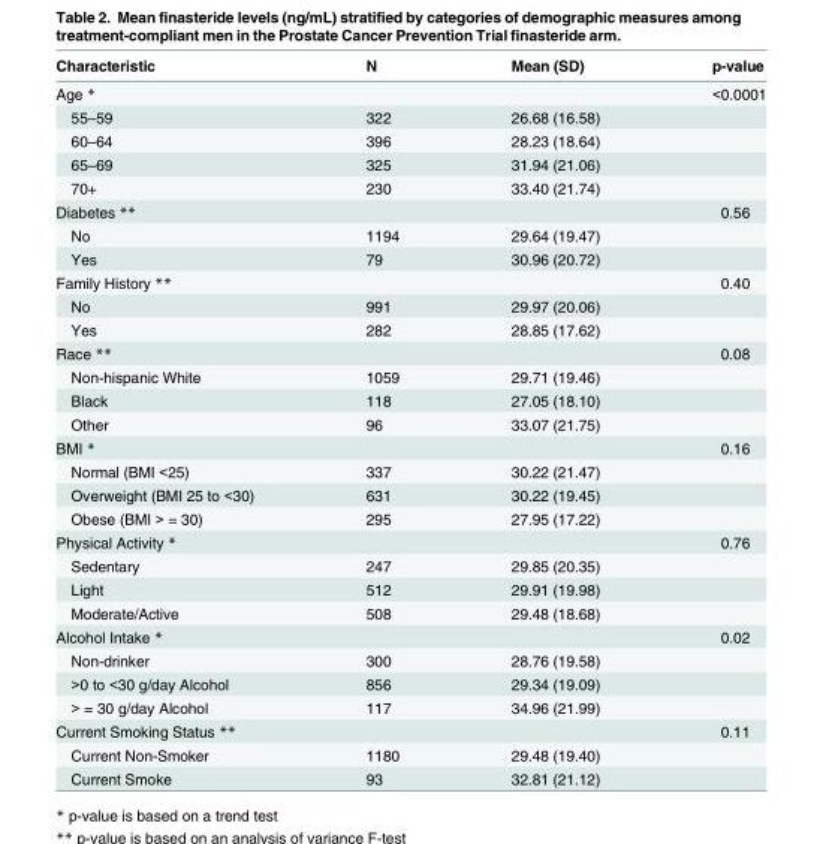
<table><thead><tr><td>Characteristic</td><td>N</td><td>Mean (SD)</td><td>p-value</td></tr></thead><tbody><tr><td>Age *</td><td></td><td></td><td>&lt;0.0001</td></tr><tr><td>55–59</td><td>322</td><td>26.68 (16.58)</td><td></td></tr><tr><td>60–64</td><td>396</td><td>28.23 (18.64)</td><td></td></tr><tr><td>65–69</td><td>325</td><td>31.94 (21.06)</td><td></td></tr><tr><td>70+</td><td>230</td><td>33.40 (21.74)</td><td></td></tr><tr><td>Diabetes **</td><td></td><td></td><td>0.56</td></tr><tr><td>No</td><td>1194</td><td>29.64 (19.47)</td><td></td></tr><tr><td>Yes</td><td>79</td><td>30.96 (20.72)</td><td></td></tr><tr><td>Family History **</td><td></td><td></td><td>0.40</td></tr><tr><td>No</td><td>991</td><td>29.97 (20.06)</td><td></td></tr><tr><td>Yes</td><td>282</td><td>28.85 (17.62)</td><td></td></tr><tr><td>Race **</td><td></td><td></td><td>0.08</td></tr><tr><td>Non-hispanic White</td><td>1059</td><td>29.71 (19.46)</td><td></td></tr><tr><td>Black</td><td>118</td><td>27.05 (18.10)</td><td></td></tr><tr><td>Other</td><td>96</td><td>33.07 (21.75)</td><td></td></tr><tr><td>BMI *</td><td></td><td></td><td>0.16</td></tr><tr><td>Normal (BMI &lt;25)</td><td>337</td><td>30.22 (21.47)</td><td></td></tr><tr><td>Overweight (BMI 25 to &lt;30)</td><td>631</td><td>30.22 (19.45)</td><td></td></tr><tr><td>Obese (BMI &gt; = 30)</td><td>295</td><td>27.95 (17.22)</td><td></td></tr><tr><td>Physical Activity *</td><td></td><td></td><td>0.76</td></tr><tr><td>Sedentary</td><td>247</td><td>29.85 (20.35)</td><td></td></tr><tr><td>Light</td><td>512</td><td>29.91 (19.98)</td><td></td></tr><tr><td>Moderate/Active</td><td>508</td><td>29.48 (18.68)</td><td></td></tr><tr><td>Alcohol Intake *</td><td></td><td></td><td>0.02</td></tr><tr><td>Non-drinker</td><td>300</td><td>28.76 (19.58)</td><td></td></tr><tr><td>&gt;0 to &lt;30 g/day Alcohol</td><td>856</td><td>29.34 (19.09)</td><td></td></tr><tr><td>&gt; = 30 g/day Alcohol</td><td>117</td><td>34.96 (21.99)</td><td></td></tr><tr><td>Current Smoking Status **</td><td></td><td></td><td>0.11</td></tr><tr><td>Current Non-Smoker</td><td>1180</td><td>29.48 (19.40)</td><td></td></tr><tr><td>Current Smoke</td><td>93</td><td>32.81 (21.12)</td><td></td></tr></tbody></table>